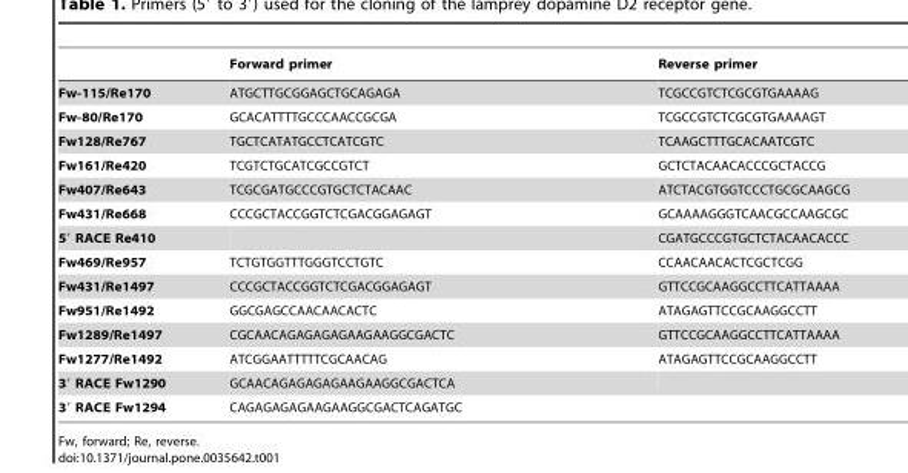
<table><thead><tr><td></td><td>Forward primer</td><td>Reverse primer</td></tr></thead><tbody><tr><td>Fw-115/Re170</td><td>ATGCTTGCGGAGCTGCAGAGA</td><td>TCGCCGTCTCGCGTGAAAAG</td></tr><tr><td>Fw-80/Re170</td><td>GCACATTTTGCCCAACCGCGA</td><td>TCGCCGTCTCGCGTGAAAAGT</td></tr><tr><td>Fw128/Re767</td><td>TGCTCATATGCCTCATCGTC</td><td>TCAAGCTTTGCACAATCGTC</td></tr><tr><td>Fw161/Re420</td><td>TCGTCTGCATCGCCGTCT</td><td>GCTCTACAACACCCGCTACCG</td></tr><tr><td>Fw407/Re643</td><td>TCGCGATGCCCGTGCTCTACAAC</td><td>ATCTACGTGGTCCCTGCGCAAGCG</td></tr><tr><td>Fw431/Re668</td><td>CCCGCTACCGGTCTCGACGGAGAGT</td><td>GCAAAAGGGTCAACGCCAAGCGC</td></tr><tr><td>5′ RACE Re410</td><td></td><td>CGATGCCCGTGCTCTACAACACCC</td></tr><tr><td>Fw469/Re957</td><td>TCTGTGGTTTGGGTCCTGTC</td><td>CCAACAACACTCGCTCGG</td></tr><tr><td>Fw431/Re1497</td><td>CCCGCTACCGGTCTCGACGGAGAGT</td><td>GTTCCGCAAGGCCTTCATTAAAA</td></tr><tr><td>Fw951/Re1492</td><td>GGCGAGCCAACAACACTC</td><td>ATAGAGTTCCGCAAGGCCTT</td></tr><tr><td>Fw1289/Re1497</td><td>CGCAACAGAGAGAGAAGAAGGCGACTC</td><td>GTTCCGCAAGGCCTTCATTAAAA</td></tr><tr><td>Fw1277/Re1492</td><td>ATCGGAATTTTTCGCAACAG</td><td>ATAGAGTTCCGCAAGGCCTT</td></tr><tr><td>3′ RACE Fw1290</td><td>GCAACAGAGAGAGAAGAAGGCGACTCA</td><td></td></tr><tr><td>3′ RACE Fw1294</td><td>CAGAGAGAGAAGAAGGCGACTCAGATGC</td><td></td></tr></tbody></table>